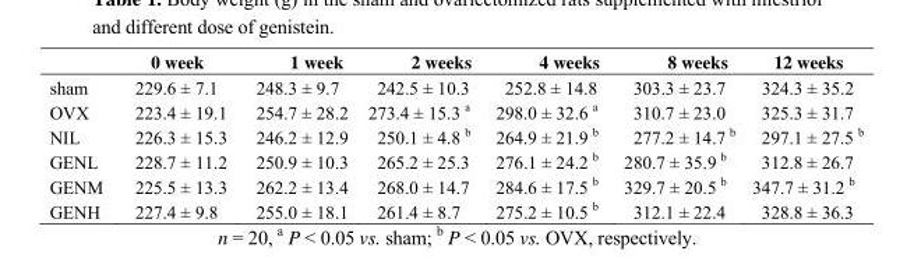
<table><thead><tr><td></td><td>0 week</td><td>1 week</td><td>2 weeks</td><td>4 weeks</td><td>8 weeks</td><td>12 weeks</td></tr></thead><tbody><tr><td>sham</td><td>229.6 ± 7.1</td><td>248.3 ± 9.7</td><td>242.5 ± 10.3</td><td>252.8 ± 14.8</td><td>303.3 ± 23.7</td><td>324.3 ± 35.2</td></tr><tr><td>OVX</td><td>223.4 ± 19.1</td><td>254.7 ± 28.2</td><td>273.4 ± 15.3 a</td><td>298.0 ± 32.6 a</td><td>310.7 ± 23.0</td><td>325.3 ± 31.7</td></tr><tr><td>NIL</td><td>226.3 ± 15.3</td><td>246.2 ± 12.9</td><td>250.1 ± 4.8 b</td><td>264.9 ± 21.9 b</td><td>277.2 ± 14.7 b</td><td>297.1 ± 27.5 b</td></tr><tr><td>GENL</td><td>228.7 ± 11.2</td><td>250.9 ± 10.3</td><td>265.2 ± 25.3</td><td>276.1 ± 24.2 b</td><td>280.7 ± 35.9 b</td><td>312.8 ± 26.7</td></tr><tr><td>GENM</td><td>225.5 ± 13.3</td><td>262.2 ± 13.4</td><td>268.0 ± 14.7</td><td>284.6 ± 17.5 b</td><td>329.7 ± 20.5 b</td><td>347.7 ± 31.2 b</td></tr><tr><td>GENH</td><td>227.4 ± 9.8</td><td>255.0 ± 18.1</td><td>261.4 ± 8.7</td><td>275.2 ± 10.5 b</td><td>312.1 ± 22.4</td><td>328.8 ± 36.3</td></tr></tbody></table>